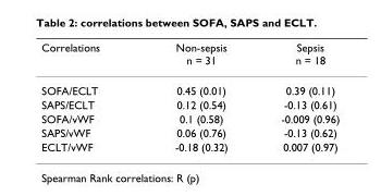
<table><thead><tr><td>Correlations</td><td>Non-sepsis n = 31</td><td>Sepsis n = 18</td></tr></thead><tbody><tr><td>SOFA/ECLT</td><td>0.45 (0.01)</td><td>0.39 (0.11)</td></tr><tr><td>SAPS/ECLT</td><td>0.12 (0.54)</td><td>-0.13 (0.61)</td></tr><tr><td>SOFA/vWF</td><td>0.1 (0.58)</td><td>-0.009 (0.96)</td></tr><tr><td>SAPS/vWF</td><td>0.06 (0.76)</td><td>-0.13 (0.62)</td></tr><tr><td>ECLT/vWF</td><td>-0.18 (0.32)</td><td>0.007 (0.97)</td></tr></tbody></table>